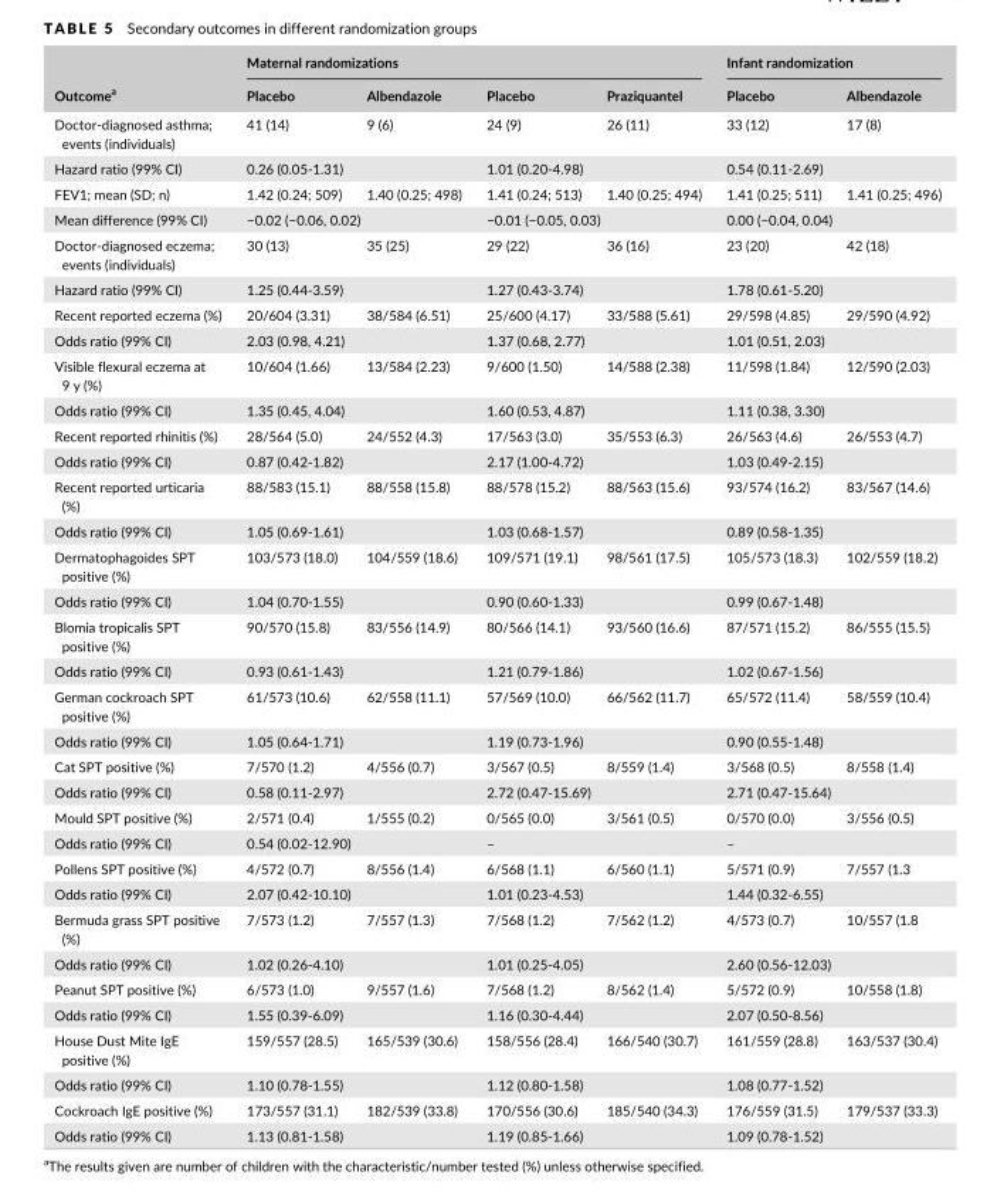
<table><thead><tr><td rowspan="2">Outcome<sup>a</sup></td><td colspan="4">Maternal randomizations</td><td colspan="2">Infant randomization</td></tr><tr><td>Placebo</td><td>Albendazole</td><td>Placebo</td><td>Praziquantel</td><td>Placebo</td><td>Albendazole</td></tr></thead><tbody><tr><td>Doctor- diagnosed asthma; events (individuals)</td><td>41 (14)</td><td>9 (6)</td><td>24 (9)</td><td>26 (11)</td><td>33 (12)</td><td>17 (8)</td></tr><tr><td>Hazard ratio (99% CI)</td><td colspan="2">0.26 (0.05- 1.31)</td><td colspan="2">1.01 (0.20- 4.98)</td><td colspan="2">0.54 (0.11- 2.69)</td></tr><tr><td>FEV1; mean (SD; n)</td><td>1.42 (0.24; 509)</td><td>1.40 (0.25; 498)</td><td>1.41 (0.24; 513)</td><td>1.40 (0.25; 494)</td><td>1.41 (0.25; 511)</td><td>1.41 (0.25; 496)</td></tr><tr><td>Mean difference (99% CI)</td><td colspan="2">−0.02 (−0.06, 0.02)</td><td colspan="2">−0.01 (−0.05, 0.03)</td><td colspan="2">0.00 (−0.04, 0.04)</td></tr><tr><td>Doctor- diagnosed eczema; events (individuals)</td><td>30 (13)</td><td>35 (25)</td><td>29 (22)</td><td>36 (16)</td><td>23 (20)</td><td>42 (18)</td></tr><tr><td>Hazard ratio (99% CI)</td><td colspan="2">1.25 (0.44- 3.59)</td><td colspan="2">1.27 (0.43- 3.74)</td><td colspan="2">1.78 (0.61- 5.20)</td></tr><tr><td>Recent reported eczema (%)</td><td>20/604 (3.31)</td><td>38/584 (6.51)</td><td>25/600 (4.17)</td><td>33/588 (5.61)</td><td>29/598 (4.85)</td><td>29/590 (4.92)</td></tr><tr><td>Odds ratio (99% CI)</td><td colspan="2">2.03 (0.98, 4.21)</td><td colspan="2">1.37 (0.68, 2.77)</td><td colspan="2">1.01 (0.51, 2.03)</td></tr><tr><td>Visible flexural eczema at 9 y (%)</td><td>10/604 (1.66)</td><td>13/584 (2.23)</td><td>9/600 (1.50)</td><td>14/588 (2.38)</td><td>11/598 (1.84)</td><td>12/590 (2.03)</td></tr><tr><td>Odds ratio (99% CI)</td><td colspan="2">1.35 (0.45, 4.04)</td><td colspan="2">1.60 (0.53, 4.87)</td><td colspan="2">1.11 (0.38, 3.30)</td></tr><tr><td>Recent reported rhinitis (%)</td><td>28/564 (5.0)</td><td>24/552 (4.3)</td><td>17/563 (3.0)</td><td>35/553 (6.3)</td><td>26/563 (4.6)</td><td>26/553 (4.7)</td></tr><tr><td>Odds ratio (99% CI)</td><td colspan="2">0.87 (0.42- 1.82)</td><td colspan="2">2.17 (1.00- 4.72)</td><td colspan="2">1.03 (0.49- 2.15)</td></tr><tr><td>Recent reported urticaria (%)</td><td>88/583 (15.1)</td><td>88/558 (15.8)</td><td>88/578 (15.2)</td><td>88/563 (15.6)</td><td>93/574 (16.2)</td><td>83/567 (14.6)</td></tr><tr><td>Odds ratio (99% CI)</td><td colspan="2">1.05 (0.69- 1.61)</td><td colspan="2">1.03 (0.68- 1.57)</td><td colspan="2">0.89 (0.58- 1.35)</td></tr><tr><td>Dermatophagoides SPT positive (%)</td><td>103/573 (18.0)</td><td>104/559 (18.6)</td><td>109/571 (19.1)</td><td>98/561 (17.5)</td><td>105/573 (18.3)</td><td>102/559 (18.2)</td></tr><tr><td>Odds ratio (99% CI)</td><td colspan="2">1.04 (0.70- 1.55)</td><td colspan="2">0.90 (0.60- 1.33)</td><td colspan="2">0.99 (0.67- 1.48)</td></tr><tr><td>Blomia tropicalis SPT positive (%)</td><td>90/570 (15.8)</td><td>83/556 (14.9)</td><td>80/566 (14.1)</td><td>93/560 (16.6)</td><td>87/571 (15.2)</td><td>86/555 (15.5)</td></tr><tr><td>Odds ratio (99% CI)</td><td colspan="2">0.93 (0.61- 1.43)</td><td colspan="2">1.21 (0.79- 1.86)</td><td colspan="2">1.02 (0.67- 1.56)</td></tr><tr><td>German cockroach SPT positive (%)</td><td>61/573 (10.6)</td><td>62/558 (11.1)</td><td>57/569 (10.0)</td><td>66/562 (11.7)</td><td>65/572 (11.4)</td><td>58/559 (10.4)</td></tr><tr><td>Odds ratio (99% CI)</td><td colspan="2">1.05 (0.64- 1.71)</td><td colspan="2">1.19 (0.73- 1.96)</td><td colspan="2">0.90 (0.55- 1.48)</td></tr><tr><td>Cat SPT positive (%)</td><td>7/570 (1.2)</td><td>4/556 (0.7)</td><td>3/567 (0.5)</td><td>8/559 (1.4)</td><td>3/568 (0.5)</td><td>8/558 (1.4)</td></tr><tr><td>Odds ratio (99% CI)</td><td colspan="2">0.58 (0.11- 2.97)</td><td colspan="2">2.72 (0.47- 15.69)</td><td colspan="2">2.71 (0.47- 15.64)</td></tr><tr><td>Mould SPT positive (%)</td><td>2/571 (0.4)</td><td>1/555 (0.2)</td><td>0/565 (0.0)</td><td>3/561 (0.5)</td><td>0/570 (0.0)</td><td>3/556 (0.5)</td></tr><tr><td>Odds ratio (99% CI)</td><td colspan="2">0.54 (0.02- 12.90)</td><td colspan="2">–</td><td colspan="2">–</td></tr><tr><td>Pollens SPT positive (%)</td><td>4/572 (0.7)</td><td>8/556 (1.4)</td><td>6/568 (1.1)</td><td>6/560 (1.1)</td><td>5/571 (0.9)</td><td>7/557 (1.3</td></tr><tr><td>Odds ratio (99% CI)</td><td colspan="2">2.07 (0.42- 10.10)</td><td colspan="2">1.01 (0.23- 4.53)</td><td colspan="2">1.44 (0.32- 6.55)</td></tr><tr><td>Bermuda grass SPT positive (%)</td><td>7/573 (1.2)</td><td>7/557 (1.3)</td><td>7/568 (1.2)</td><td>7/562 (1.2)</td><td>4/573 (0.7)</td><td>10/557 (1.8</td></tr><tr><td>Odds ratio (99% CI)</td><td colspan="2">1.02 (0.26- 4.10)</td><td colspan="2">1.01 (0.25- 4.05)</td><td colspan="2">2.60 (0.56- 12.03)</td></tr><tr><td>Peanut SPT positive (%)</td><td>6/573 (1.0)</td><td>9/557 (1.6)</td><td>7/568 (1.2)</td><td>8/562 (1.4)</td><td>5/572 (0.9)</td><td>10/558 (1.8)</td></tr><tr><td>Odds ratio (99% CI)</td><td colspan="2">1.55 (0.39- 6.09)</td><td colspan="2">1.16 (0.30- 4.44)</td><td colspan="2">2.07 (0.50- 8.56)</td></tr><tr><td>House Dust Mite IgE positive (%)</td><td>159/557 (28.5)</td><td>165/539 (30.6)</td><td>158/556 (28.4)</td><td>166/540 (30.7)</td><td>161/559 (28.8)</td><td>163/537 (30.4)</td></tr><tr><td>Odds ratio (99% CI)</td><td colspan="2">1.10 (0.78- 1.55)</td><td colspan="2">1.12 (0.80- 1.58)</td><td colspan="2">1.08 (0.77- 1.52)</td></tr><tr><td>Cockroach IgE positive (%)</td><td>173/557 (31.1)</td><td>182/539 (33.8)</td><td>170/556 (30.6)</td><td>185/540 (34.3)</td><td>176/559 (31.5)</td><td>179/537 (33.3)</td></tr><tr><td>Odds ratio (99% CI)</td><td colspan="2">1.13 (0.81- 1.58)</td><td colspan="2">1.19 (0.85- 1.66)</td><td colspan="2">1.09 (0.78- 1.52)</td></tr></tbody></table>